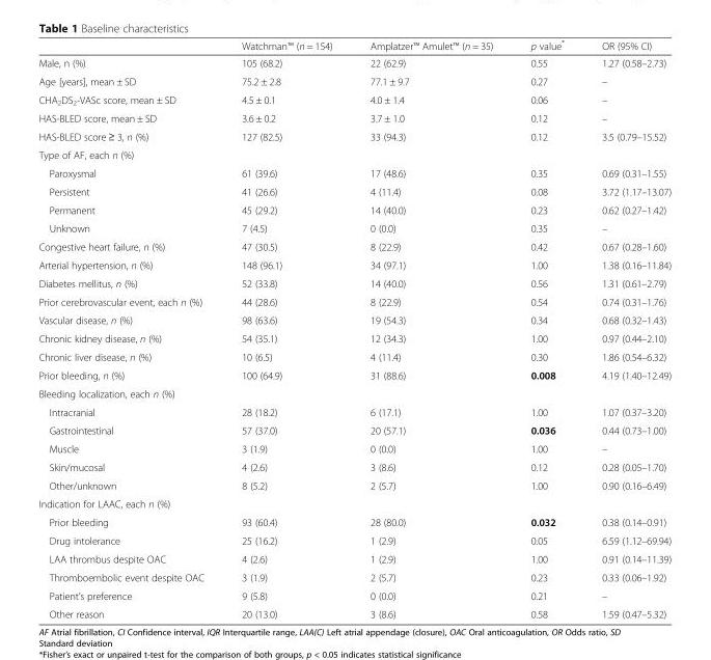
<table><thead><tr><td></td><td>Watchman™ (n = 154)</td><td>Amplatzer™ Amulet™ (n = 35)</td><td>p value*</td><td>OR (95% CI)</td></tr></thead><tbody><tr><td>Male, n (%)</td><td>105 (68.2)</td><td>22 (62.9)</td><td>0.55</td><td>1.27 (0.58–2.73)</td></tr><tr><td>Age [years], mean ± SD</td><td>75.2 ± 2.8</td><td>77.1 ± 9.7</td><td>0.27</td><td>–</td></tr><tr><td>CHA<sub>2</sub>DS<sub>2</sub>-VASc score, mean ± SD</td><td>4.5 ± 0.1</td><td>4.0 ± 1.4</td><td>0.06</td><td>–</td></tr><tr><td>HAS-BLED score, mean ± SD</td><td>3.6 ± 0.2</td><td>3.7 ± 1.0</td><td>0.12</td><td>–</td></tr><tr><td>HAS-BLED score ≥ 3, n (%)</td><td>127 (82.5)</td><td>33 (94.3)</td><td>0.12</td><td>3.5 (0.79–15.52)</td></tr><tr><td colspan="5">Type of AF, each n (%)</td></tr><tr><td>Paroxysmal</td><td>61 (39.6)</td><td>17 (48.6)</td><td>0.35</td><td>0.69 (0.31–1.55)</td></tr><tr><td>Persistent</td><td>41 (26.6)</td><td>4 (11.4)</td><td>0.08</td><td>3.72 (1.17–13.07)</td></tr><tr><td>Permanent</td><td>45 (29.2)</td><td>14 (40.0)</td><td>0.23</td><td>0.62 (0.27–1.42)</td></tr><tr><td>Unknown</td><td>7 (4.5)</td><td>0 (0.0)</td><td>0.35</td><td>–</td></tr><tr><td>Congestive heart failure, n (%)</td><td>47 (30.5)</td><td>8 (22.9)</td><td>0.42</td><td>0.67 (0.28–1.60)</td></tr><tr><td>Arterial hypertension, n (%)</td><td>148 (96.1)</td><td>34 (97.1)</td><td>1.00</td><td>1.38 (0.16–11.84)</td></tr><tr><td>Diabetes mellitus, n (%)</td><td>52 (33.8)</td><td>14 (40.0)</td><td>0.56</td><td>1.31 (0.61–2.79)</td></tr><tr><td>Prior cerebrovascular event, each n (%)</td><td>44 (28.6)</td><td>8 (22.9)</td><td>0.54</td><td>0.74 (0.31–1.76)</td></tr><tr><td>Vascular disease, n (%)</td><td>98 (63.6)</td><td>19 (54.3)</td><td>0.34</td><td>0.68 (0.32–1.43)</td></tr><tr><td>Chronic kidney disease, n (%)</td><td>54 (35.1)</td><td>12 (34.3)</td><td>1.00</td><td>0.97 (0.44–2.10)</td></tr><tr><td>Chronic liver disease, n (%)</td><td>10 (6.5)</td><td>4 (11.4)</td><td>0.30</td><td>1.86 (0.54–6.32)</td></tr><tr><td>Prior bleeding, n (%)</td><td>100 (64.9)</td><td>31 (88.6)</td><td>0.008</td><td>4.19 (1.40–12.49)</td></tr><tr><td colspan="5">Bleeding localization, each n (%)</td></tr><tr><td>Intracranial</td><td>28 (18.2)</td><td>6 (17.1)</td><td>1.00</td><td>1.07 (0.37–3.20)</td></tr><tr><td>Gastrointestinal</td><td>57 (37.0)</td><td>20 (57.1)</td><td>0.036</td><td>0.44 (0.73–1.00)</td></tr><tr><td>Muscle</td><td>3 (1.9)</td><td>0 (0.0)</td><td>1.00</td><td>–</td></tr><tr><td>Skin/mucosal</td><td>4 (2.6)</td><td>3 (8.6)</td><td>0.12</td><td>0.28 (0.05–1.70)</td></tr><tr><td>Other/unknown</td><td>8 (5.2)</td><td>2 (5.7)</td><td>1.00</td><td>0.90 (0.16–6.49)</td></tr><tr><td colspan="5">Indication for LAAC, each n (%)</td></tr><tr><td>Prior bleeding</td><td>93 (60.4)</td><td>28 (80.0)</td><td>0.032</td><td>0.38 (0.14–0.91)</td></tr><tr><td>Drug intolerance</td><td>25 (16.2)</td><td>1 (2.9)</td><td>0.05</td><td>6.59 (1.12–69.94)</td></tr><tr><td>LAA thrombus despite OAC</td><td>4 (2.6)</td><td>1 (2.9)</td><td>1.00</td><td>0.91 (0.14–11.39)</td></tr><tr><td>Thromboembolic event despite OAC</td><td>3 (1.9)</td><td>2 (5.7)</td><td>0.23</td><td>0.33 (0.06–1.92)</td></tr><tr><td>Patient’s preference</td><td>9 (5.8)</td><td>0 (0.0)</td><td>0.21</td><td>–</td></tr><tr><td>Other reason</td><td>20 (13.0)</td><td>3 (8.6)</td><td>0.58</td><td>1.59 (0.47–5.32)</td></tr></tbody></table>